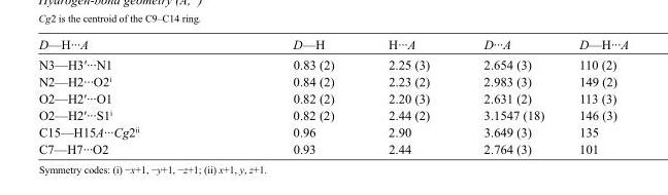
<table><tbody><tr><td>D—H···A</td><td>D—H</td><td>H···A</td><td>D···A</td><td>D—H···A</td></tr><tr><td>N3—H3′···N1</td><td>0.83 (2)</td><td>2.25 (3)</td><td>2.654 (3)</td><td>110 (2)</td></tr><tr><td>N2—H2···O2<sup>i</sup></td><td>0.84 (2)</td><td>2.23 (2)</td><td>2.983 (3)</td><td>149 (2)</td></tr><tr><td>O2—H2′···O1</td><td>0.82 (2)</td><td>2.20 (3)</td><td>2.631 (2)</td><td>113 (3)</td></tr><tr><td>O2—H2′···S1<sup>i</sup></td><td>0.82 (2)</td><td>2.44 (2)</td><td>3.1547 (18)</td><td>146 (3)</td></tr><tr><td>C15—H15A···Cg2<sup>ii</sup></td><td>0.96</td><td>2.90</td><td>3.649 (3)</td><td>135</td></tr><tr><td>C7—H7···O2</td><td>0.93</td><td>2.44</td><td>2.764 (3)</td><td>101</td></tr></tbody></table>